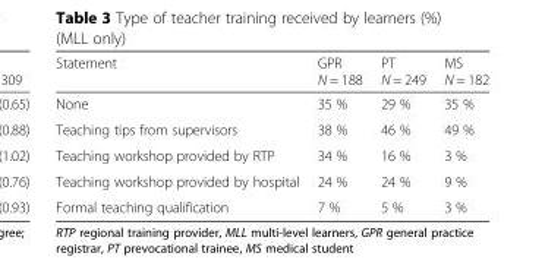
<table><thead><tr><td>Statement</td><td>GPR N = 188</td><td>PT N = 249</td><td>MS N = 182</td></tr></thead><tbody><tr><td>None</td><td>35 %</td><td>29 %</td><td>35 %</td></tr><tr><td>Teaching tips from supervisors</td><td>38 %</td><td>46 %</td><td>49 %</td></tr><tr><td>Teaching workshop provided by RTP</td><td>34 %</td><td>16 %</td><td>3 %</td></tr><tr><td>Teaching workshop provided by hospital</td><td>24 %</td><td>24 %</td><td>9 %</td></tr><tr><td>Formal teaching qualification</td><td>7 %</td><td>5 %</td><td>3 %</td></tr></tbody></table>